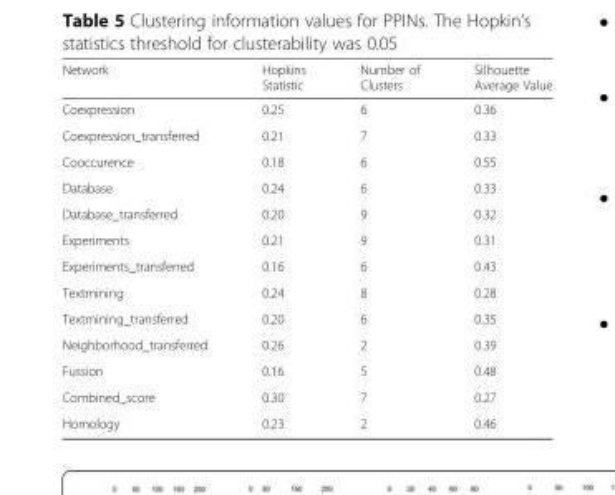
<table><thead><tr><td>Network</td><td>Hopkins Statistic</td><td>Number of Clusters</td><td>Silhouette Average Value</td></tr></thead><tbody><tr><td>Coexpression</td><td>0.25</td><td>6</td><td>0.36</td></tr><tr><td>Coexpression_transferred</td><td>0.21</td><td>7</td><td>0.33</td></tr><tr><td>Cooccurence</td><td>0.18</td><td>6</td><td>0.55</td></tr><tr><td>Database</td><td>0.24</td><td>6</td><td>0.33</td></tr><tr><td>Database_transferred</td><td>0.20</td><td>9</td><td>0.32</td></tr><tr><td>Experiments</td><td>0.21</td><td>9</td><td>0.31</td></tr><tr><td>Experiments_transferred</td><td>0.16</td><td>6</td><td>0.43</td></tr><tr><td>Textmining</td><td>0.24</td><td>8</td><td>0.28</td></tr><tr><td>Textmining_transferred</td><td>0.20</td><td>6</td><td>0.35</td></tr><tr><td>Neighborhood_transferred</td><td>0.26</td><td>2</td><td>0.39</td></tr><tr><td>Fussion</td><td>0.16</td><td>5</td><td>0.48</td></tr><tr><td>Combined_score</td><td>0.30</td><td>7</td><td>0.27</td></tr><tr><td>Homology</td><td>0.23</td><td>2</td><td>0.46</td></tr></tbody></table>